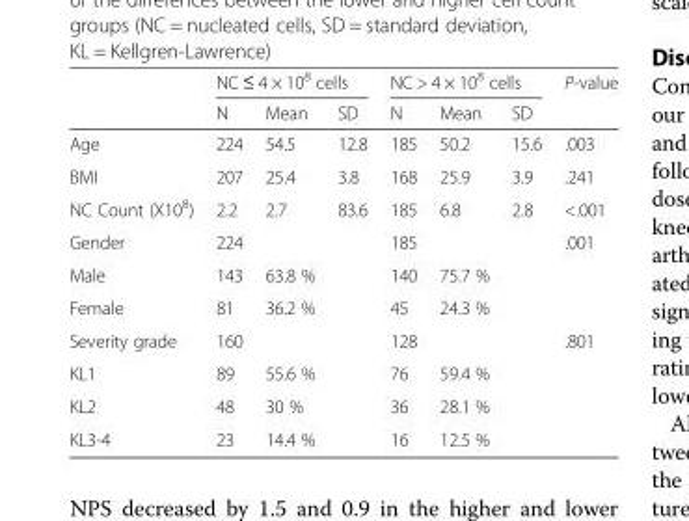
<table><thead><tr><td rowspan="2"></td><td colspan="3">NC ≤ 4 × 10<sup>8</sup> cells</td><td colspan="3">NC &gt; 4 × 10<sup>8</sup> cells</td><td rowspan="2">P-value</td></tr><tr><td>N</td><td>Mean</td><td>SD</td><td>N</td><td>Mean</td><td>SD</td></tr></thead><tbody><tr><td>Age</td><td>224</td><td>54.5</td><td>12.8</td><td>185</td><td>50.2</td><td>15.6</td><td>.003</td></tr><tr><td>BMI</td><td>207</td><td>25.4</td><td>3.8</td><td>168</td><td>25.9</td><td>3.9</td><td>.241</td></tr><tr><td>NC Count (X10<sup>8</sup>)</td><td>2.2</td><td>2.7</td><td>83.6</td><td>185</td><td>6.8</td><td>2.8</td><td>&lt;.001</td></tr><tr><td>Gender</td><td>224</td><td></td><td></td><td>185</td><td></td><td></td><td>.001</td></tr><tr><td>Male</td><td>143</td><td>63.8 %</td><td></td><td>140</td><td>75.7 %</td><td></td><td></td></tr><tr><td>Female</td><td>81</td><td>36.2 %</td><td></td><td>45</td><td>24.3 %</td><td></td><td></td></tr><tr><td>Severity grade</td><td>160</td><td></td><td></td><td>128</td><td></td><td></td><td>.801</td></tr><tr><td>KL1</td><td>89</td><td>55.6 %</td><td></td><td>76</td><td>59.4 %</td><td></td><td></td></tr><tr><td>KL2</td><td>48</td><td>30 %</td><td></td><td>36</td><td>28.1 %</td><td></td><td></td></tr><tr><td>KL3-4</td><td>23</td><td>14.4 %</td><td></td><td>16</td><td>12.5 %</td><td></td><td></td></tr></tbody></table>